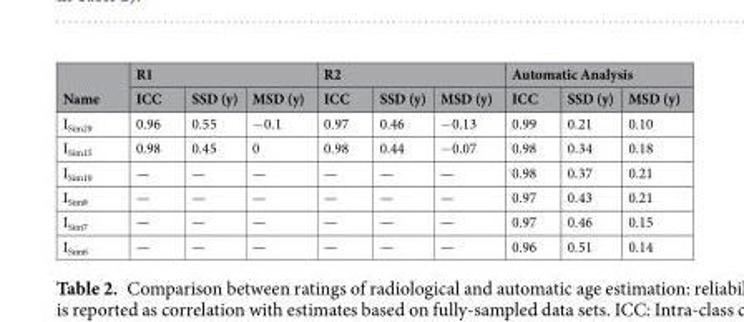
<table><thead><tr><td rowspan="2">Name</td><td colspan="3">R1</td><td colspan="3">R2</td><td colspan="3">Automatic Analysis</td></tr><tr><td>ICC</td><td>SSD (y)</td><td>MSD (y)</td><td>ICC</td><td>SSD (y)</td><td>MSD (y)</td><td>ICC</td><td>SSD (y)</td><td>MSD (y)</td></tr></thead><tbody><tr><td>I<sub>Sim29</sub></td><td>0.96</td><td>0.55</td><td>−0.1</td><td>0.97</td><td>0.46</td><td>−0.13</td><td>0.99</td><td>0.21</td><td>0.10</td></tr><tr><td>I<sub>Sim15</sub></td><td>0.98</td><td>0.45</td><td>0</td><td>0.98</td><td>0.44</td><td>−0.07</td><td>0.98</td><td>0.34</td><td>0.18</td></tr><tr><td>I<sub>Sim10</sub></td><td>—</td><td>—</td><td>—</td><td>—</td><td>—</td><td>—</td><td>0.98</td><td>0.37</td><td>0.21</td></tr><tr><td>I<sub>Sim8</sub></td><td>—</td><td>—</td><td>—</td><td>—</td><td>—</td><td>—</td><td>0.97</td><td>0.43</td><td>0.21</td></tr><tr><td>I<sub>Sim7</sub></td><td>—</td><td>—</td><td>—</td><td>—</td><td>—</td><td>—</td><td>0.97</td><td>0.46</td><td>0.15</td></tr><tr><td>I<sub>Sim6</sub></td><td>—</td><td>—</td><td>—</td><td>—</td><td>—</td><td>—</td><td>0.96</td><td>0.51</td><td>0.14</td></tr></tbody></table>